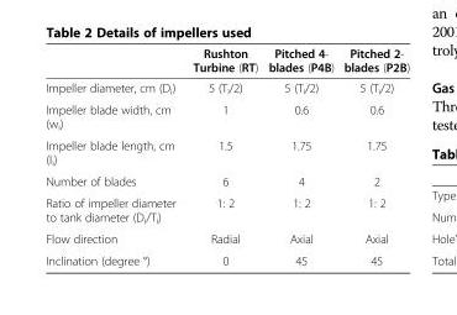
<table><thead><tr><td></td><td>Rushton Turbine (RT)</td><td>Pitched 4- blades (P4B)</td><td>Pitched 2- blades (P2B)</td></tr></thead><tbody><tr><td>Impeller diameter, cm (D<sub>i</sub>)</td><td>5 (T<sub>i</sub>/2)</td><td>5 (T<sub>i</sub>/2)</td><td>5 (T<sub>i</sub>/2)</td></tr><tr><td>Impeller blade width, cm (w<sub>i</sub>)</td><td>1</td><td>0.6</td><td>0.6</td></tr><tr><td>Impeller blade length, cm (l<sub>i</sub>)</td><td>1.5</td><td>1.75</td><td>1.75</td></tr><tr><td>Number of blades</td><td>6</td><td>4</td><td>2</td></tr><tr><td>Ratio of impeller diameter to tank diameter (D<sub>i</sub>/T<sub>i</sub>)</td><td>1: 2</td><td>1: 2</td><td>1: 2</td></tr><tr><td>Flow direction</td><td>Radial</td><td>Axial</td><td>Axial</td></tr><tr><td>Inclination (degree °)</td><td>0</td><td>45</td><td>45</td></tr></tbody></table>